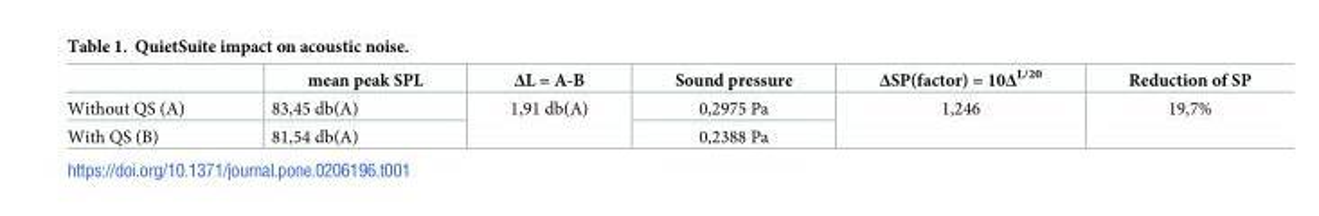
<table><thead><tr><td></td><td>mean peak SPL</td><td>ΔL = A-B</td><td>Sound pressure</td><td>ΔSP(factor) = 10Δ<sup>L/20</sup></td><td>Reduction of SP</td></tr></thead><tbody><tr><td>Without QS (A)</td><td>83,45 db(A)</td><td rowspan="2">1,91 db(A)</td><td>0,2975 Pa</td><td rowspan="2">1,246</td><td rowspan="2">19,7%</td></tr><tr><td>With QS (B)</td><td>81,54 db(A)</td><td>0,2388 Pa</td></tr></tbody></table>